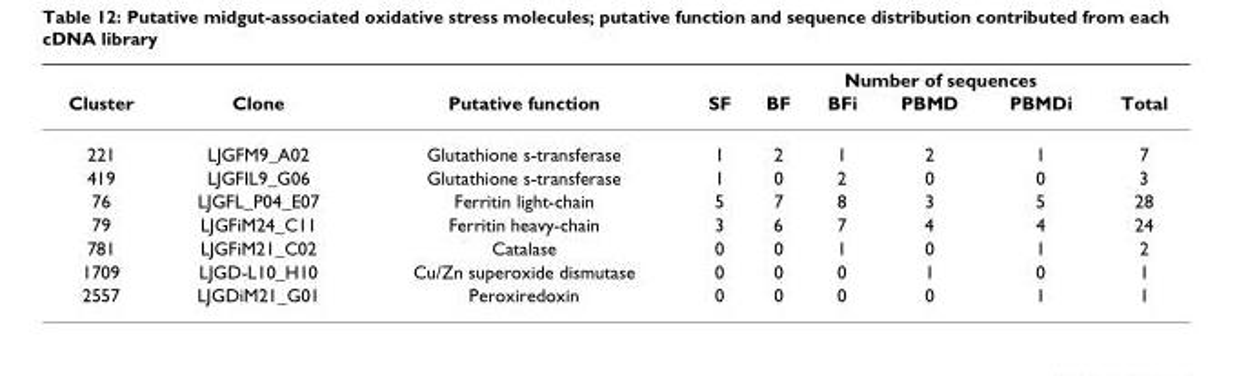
<table><thead><tr><td rowspan="2">Cluster</td><td rowspan="2">Clone</td><td rowspan="2">Putative function</td><td colspan="6">Number of sequences</td></tr><tr><td>SF</td><td>BF</td><td>BFi</td><td>PBMD</td><td>PBMDi</td><td>Total</td></tr></thead><tbody><tr><td>221</td><td>LJGFM9_A02</td><td>Glutathione s-transferase</td><td>1</td><td>2</td><td>1</td><td>2</td><td>1</td><td>7</td></tr><tr><td>419</td><td>LJGFIL9_G06</td><td>Glutathione s-transferase</td><td>1</td><td>0</td><td>2</td><td>0</td><td>0</td><td>3</td></tr><tr><td>76</td><td>LJGFL_P04_E07</td><td>Ferritin light-chain</td><td>5</td><td>7</td><td>8</td><td>3</td><td>5</td><td>28</td></tr><tr><td>79</td><td>LJGFiM24_C11</td><td>Ferritin heavy-chain</td><td>3</td><td>6</td><td>7</td><td>4</td><td>4</td><td>24</td></tr><tr><td>781</td><td>LJGFiM21_C02</td><td>Catalase</td><td>0</td><td>0</td><td>1</td><td>0</td><td>1</td><td>2</td></tr><tr><td>1709</td><td>LJGD-L10_H10</td><td>Cu/Zn superoxide dismutase</td><td>0</td><td>0</td><td>0</td><td>1</td><td>0</td><td>1</td></tr><tr><td>2557</td><td>LJGDiM21_G01</td><td>Peroxiredoxin</td><td>0</td><td>0</td><td>0</td><td>0</td><td>1</td><td>1</td></tr></tbody></table>